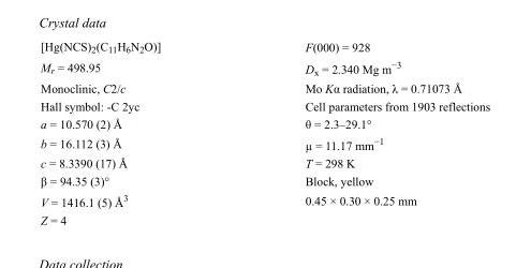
<table><tbody><tr><td>[Hg(NCS)<sub>2</sub>(C<sub>11</sub>H<sub>6</sub>N<sub>2</sub>O)]</td><td>F(000) = 928</td></tr><tr><td>M<sub>r</sub> = 498.95</td><td>D<sub>x</sub> = 2.340 Mg m<sup>−3</sup></td></tr><tr><td>Monoclinic, C2/c</td><td>Mo Kα radiation, λ = 0.71073 Å</td></tr><tr><td>Hall symbol: -C 2yc</td><td>Cell parameters from 1903 reflections</td></tr><tr><td>a = 10.570 (2) Å</td><td>θ = 2.3–29.1°</td></tr><tr><td>b = 16.112 (3) Å</td><td>µ = 11.17 mm<sup>−1</sup></td></tr><tr><td>c = 8.3390 (17) Å</td><td>T = 298 K</td></tr><tr><td>β = 94.35 (3)°</td><td>Block, yellow</td></tr><tr><td>V = 1416.1 (5) Å<sup>3</sup></td><td>0.45 × 0.30 × 0.25 mm</td></tr><tr><td>Z = 4</td><td></td></tr></tbody></table>